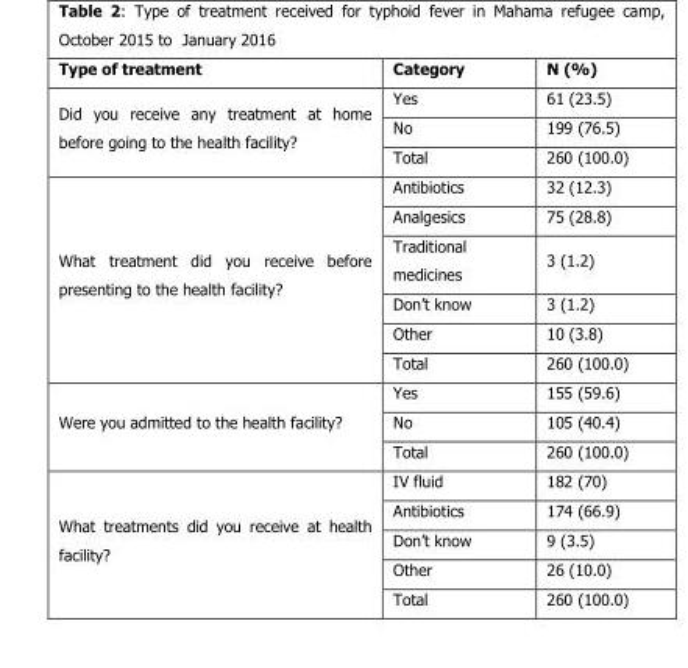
<table><thead><tr><td>Type of treatment</td><td>Category</td><td>N (%)</td></tr></thead><tbody><tr><td rowspan="3">Did you receive any treatment at home before going to the health facility?</td><td>Yes</td><td>61 (23.5)</td></tr><tr><td>No</td><td>199 (76.5)</td></tr><tr><td>Total</td><td>260 (100.0)</td></tr><tr><td rowspan="6">What treatment did you receive before presenting to the health facility?</td><td>Antibiotics</td><td>32 (12.3)</td></tr><tr><td>Analgesics</td><td>75 (28.8)</td></tr><tr><td>Traditional medicines</td><td>3 (1.2)</td></tr><tr><td>Don’t know</td><td>3 (1.2)</td></tr><tr><td>Other</td><td>10 (3.8)</td></tr><tr><td>Total</td><td>260 (100.0)</td></tr><tr><td rowspan="3">Were you admitted to the health facility?</td><td>Yes</td><td>155 (59.6)</td></tr><tr><td>No</td><td>105 (40.4)</td></tr><tr><td>Total</td><td>260 (100.0)</td></tr><tr><td rowspan="5">What treatments did you receive at health facility?</td><td>IV fluid</td><td>182 (70)</td></tr><tr><td>Antibiotics</td><td>174 (66.9)</td></tr><tr><td>Don’t know</td><td>9 (3.5)</td></tr><tr><td>Other</td><td>26 (10.0)</td></tr><tr><td>Total</td><td>260 (100.0)</td></tr></tbody></table>